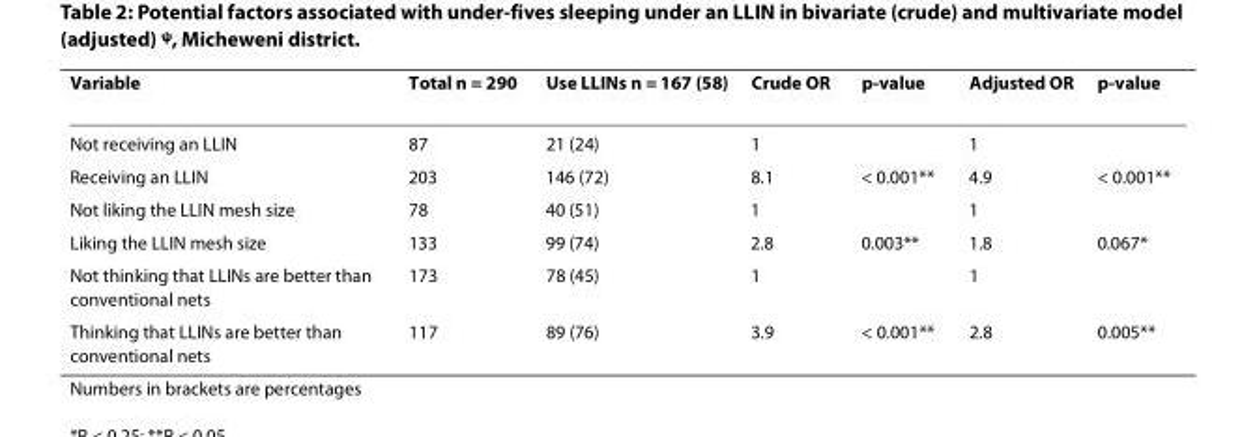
<table><thead><tr><td>Variable</td><td>Total n = 290</td><td>Use LLINs n = 167 (58)</td><td>Crude OR</td><td>p-value</td><td>Adjusted OR</td><td>p-value</td></tr></thead><tbody><tr><td>Not receiving an LLIN</td><td>87</td><td>21 (24)</td><td>1</td><td></td><td>1</td><td></td></tr><tr><td>Receiving an LLIN</td><td>203</td><td>146 (72)</td><td>8.1</td><td>&lt; 0.001**</td><td>4.9</td><td>&lt; 0.001**</td></tr><tr><td>Not liking the LLIN mesh size</td><td>78</td><td>40 (51)</td><td>1</td><td></td><td>1</td><td></td></tr><tr><td>Liking the LLIN mesh size</td><td>133</td><td>99 (74)</td><td>2.8</td><td>0.003**</td><td>1.8</td><td>0.067*</td></tr><tr><td>Not thinking that LLINs are better than conventional nets</td><td>173</td><td>78 (45)</td><td>1</td><td></td><td>1</td><td></td></tr><tr><td>Thinking that LLINs are better than conventional nets</td><td>117</td><td>89 (76)</td><td>3.9</td><td>&lt; 0.001**</td><td>2.8</td><td>0.005**</td></tr></tbody></table>